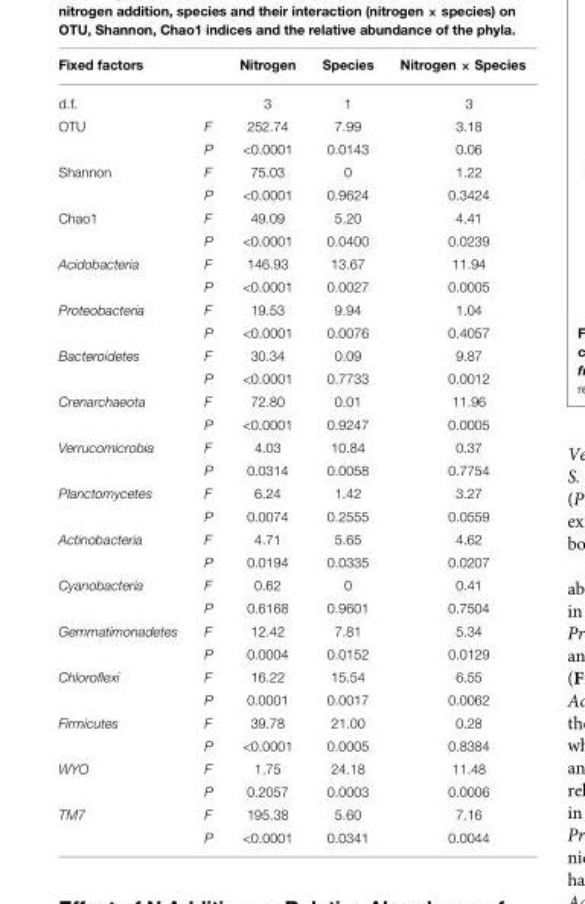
<table><thead><tr><td>Fixed factors</td><td></td><td>Nitrogen</td><td>Species</td><td>Nitrogen × Species</td></tr></thead><tbody><tr><td>d.f.</td><td></td><td>3</td><td>1</td><td>3</td></tr><tr><td rowspan="2">OTU</td><td>F</td><td>252.74</td><td>7.99</td><td>3.18</td></tr><tr><td>P</td><td>&lt;0.0001</td><td>0.0143</td><td>0.06</td></tr><tr><td rowspan="2">Shannon</td><td>F</td><td>75.03</td><td>0</td><td>1.22</td></tr><tr><td>P</td><td>&lt;0.0001</td><td>0.9624</td><td>0.3424</td></tr><tr><td rowspan="2">Chao1</td><td>F</td><td>49.09</td><td>5.20</td><td>4.41</td></tr><tr><td>P</td><td>&lt;0.0001</td><td>0.0400</td><td>0.0239</td></tr><tr><td rowspan="2">Acidobacteria</td><td>F</td><td>146.93</td><td>13.67</td><td>11.94</td></tr><tr><td>P</td><td>&lt;0.0001</td><td>0.0027</td><td>0.0005</td></tr><tr><td rowspan="2">Proteobacteria</td><td>F</td><td>19.53</td><td>9.94</td><td>1.04</td></tr><tr><td>P</td><td>&lt;0.0001</td><td>0.0076</td><td>0.4057</td></tr><tr><td rowspan="2">Bacteroidetes</td><td>F</td><td>30.34</td><td>0.09</td><td>9.87</td></tr><tr><td>P</td><td>&lt;0.0001</td><td>0.7733</td><td>0.0012</td></tr><tr><td rowspan="2">Crenarchaeota</td><td>F</td><td>72.80</td><td>0.01</td><td>11.96</td></tr><tr><td>P</td><td>&lt;0.0001</td><td>0.9247</td><td>0.0005</td></tr><tr><td rowspan="2">Verrucomicrobia</td><td>F</td><td>4.03</td><td>10.84</td><td>0.37</td></tr><tr><td>P</td><td>0.0314</td><td>0.0058</td><td>0.7754</td></tr><tr><td rowspan="2">Planctomycetes</td><td>F</td><td>6.24</td><td>1.42</td><td>3.27</td></tr><tr><td>P</td><td>0.0074</td><td>0.2555</td><td>0.0559</td></tr><tr><td rowspan="2">Actinobacteria</td><td>F</td><td>4.71</td><td>5.65</td><td>4.62</td></tr><tr><td>P</td><td>0.0194</td><td>0.0335</td><td>0.0207</td></tr><tr><td rowspan="2">Cyanobacteria</td><td>F</td><td>0.62</td><td>0</td><td>0.41</td></tr><tr><td>P</td><td>0.6168</td><td>0.9601</td><td>0.7504</td></tr><tr><td rowspan="2">Gemmatimonadetes</td><td>F</td><td>12.42</td><td>7.81</td><td>5.34</td></tr><tr><td>P</td><td>0.0004</td><td>0.0152</td><td>0.0129</td></tr><tr><td rowspan="2">Chloroflexi</td><td>F</td><td>16.22</td><td>15.54</td><td>6.55</td></tr><tr><td>P</td><td>0.0001</td><td>0.0017</td><td>0.0062</td></tr><tr><td rowspan="2">Firmicutes</td><td>F</td><td>39.78</td><td>21.00</td><td>0.28</td></tr><tr><td>P</td><td>&lt;0.0001</td><td>0.0005</td><td>0.8384</td></tr><tr><td rowspan="2">WYO</td><td>F</td><td>1.75</td><td>24.18</td><td>11.48</td></tr><tr><td>P</td><td>0.2057</td><td>0.0003</td><td>0.0006</td></tr><tr><td rowspan="2">TM7</td><td>F</td><td>195.38</td><td>5.60</td><td>7.16</td></tr><tr><td>P</td><td>&lt;0.0001</td><td>0.0341</td><td>0.0044</td></tr></tbody></table>